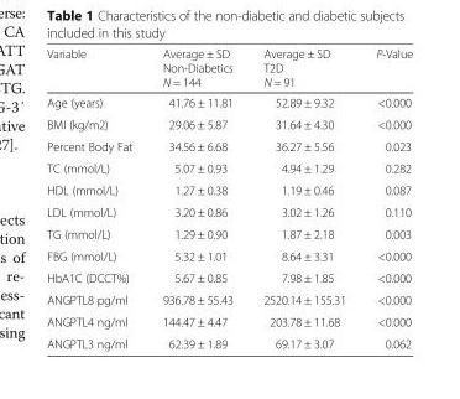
<table><thead><tr><td>Variable</td><td>Average ± SD Non-Diabetics N = 144</td><td>Average ± SD T2D N = 91</td><td>P-Value</td></tr></thead><tbody><tr><td>Age (years)</td><td>41.76 ± 11.81</td><td>52.89 ± 9.32</td><td>&lt;0.000</td></tr><tr><td>BMI (kg/m2)</td><td>29.06 ± 5.87</td><td>31.64 ± 4.30</td><td>&lt;0.000</td></tr><tr><td>Percent Body Fat</td><td>34.56 ± 6.68</td><td>36.27 ± 5.56</td><td>0.023</td></tr><tr><td>TC (mmol/L)</td><td>5.07 ± 0.93</td><td>4.94 ± 1.29</td><td>0.282</td></tr><tr><td>HDL (mmol/L)</td><td>1.27 ± 0.38</td><td>1.19 ± 0.46</td><td>0.087</td></tr><tr><td>LDL (mmol/L)</td><td>3.20 ± 0.86</td><td>3.02 ± 1.26</td><td>0.110</td></tr><tr><td>TG (mmol/L)</td><td>1.29 ± 0.90</td><td>1.87 ± 2.18</td><td>0.003</td></tr><tr><td>FBG (mmol/L)</td><td>5.32 ± 1.01</td><td>8.64 ± 3.31</td><td>&lt;0.000</td></tr><tr><td>HbA1C (DCCT%)</td><td>5.67 ± 0.85</td><td>7.98 ± 1.85</td><td>&lt;0.000</td></tr><tr><td>ANGPTL8 pg/ml</td><td>936.78 ± 55.43</td><td>2520.14 ± 155.31</td><td>&lt;0.000</td></tr><tr><td>ANGPTL4 ng/ml</td><td>144.47 ± 4.47</td><td>203.78 ± 11.68</td><td>&lt;0.000</td></tr><tr><td>ANGPTL3 ng/ml</td><td>62.39 ± 1.89</td><td>69.17 ± 3.07</td><td>0.062</td></tr></tbody></table>